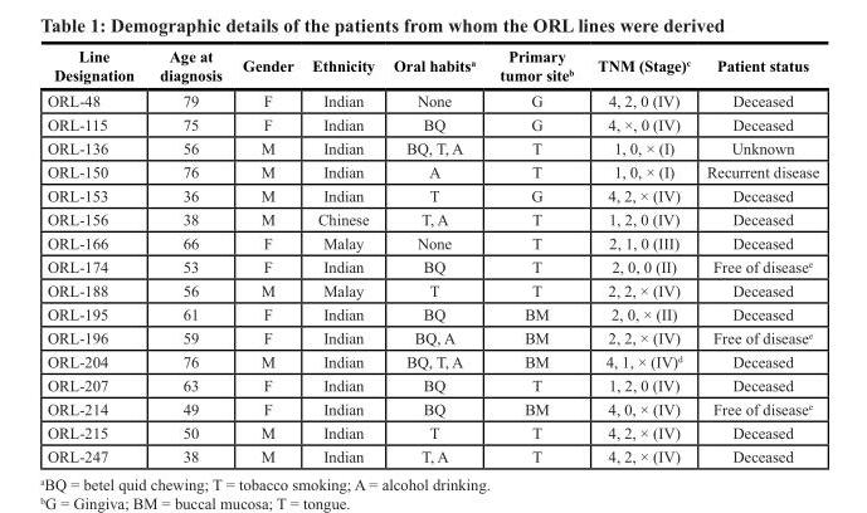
<table><thead><tr><td>Line Designation</td><td>Age at diagnosis</td><td>Gender</td><td>Ethnicity</td><td>Oral habits<sup>a</sup></td><td>Primary tumor site<sup>b</sup></td><td>TNM (Stage)<sup>c</sup></td><td>Patient status</td></tr></thead><tbody><tr><td>ORL-48</td><td>79</td><td>F</td><td>Indian</td><td>None</td><td>G</td><td>4, 2, 0 (IV)</td><td>Deceased</td></tr><tr><td>ORL-115</td><td>75</td><td>F</td><td>Indian</td><td>BQ</td><td>G</td><td>4, ×, 0 (IV)</td><td>Deceased</td></tr><tr><td>ORL-136</td><td>56</td><td>M</td><td>Indian</td><td>BQ, T, A</td><td>T</td><td>1, 0, × (I)</td><td>Unknown</td></tr><tr><td>ORL-150</td><td>76</td><td>M</td><td>Indian</td><td>A</td><td>T</td><td>1, 0, × (I)</td><td>Recurrent disease</td></tr><tr><td>ORL-153</td><td>36</td><td>M</td><td>Indian</td><td>T</td><td>G</td><td>4, 2, × (IV)</td><td>Deceased</td></tr><tr><td>ORL-156</td><td>38</td><td>M</td><td>Chinese</td><td>T, A</td><td>T</td><td>1, 2, 0 (IV)</td><td>Deceased</td></tr><tr><td>ORL-166</td><td>66</td><td>F</td><td>Malay</td><td>None</td><td>T</td><td>2, 1, 0 (III)</td><td>Deceased</td></tr><tr><td>ORL-174</td><td>53</td><td>F</td><td>Indian</td><td>BQ</td><td>T</td><td>2, 0, 0 (II)</td><td>Free of disease<sup>e</sup></td></tr><tr><td>ORL-188</td><td>56</td><td>M</td><td>Malay</td><td>T</td><td>T</td><td>2, 2, × (IV)</td><td>Deceased</td></tr><tr><td>ORL-195</td><td>61</td><td>F</td><td>Indian</td><td>BQ</td><td>BM</td><td>2, 0, × (II)</td><td>Deceased</td></tr><tr><td>ORL-196</td><td>59</td><td>F</td><td>Indian</td><td>BQ, A</td><td>BM</td><td>2, 2, × (IV)</td><td>Free of disease<sup>e</sup></td></tr><tr><td>ORL-204</td><td>76</td><td>M</td><td>Indian</td><td>BQ, T, A</td><td>BM</td><td>4, 1, × (IV)<sup>d</sup></td><td>Deceased</td></tr><tr><td>ORL-207</td><td>63</td><td>F</td><td>Indian</td><td>BQ</td><td>T</td><td>1, 2, 0 (IV)</td><td>Deceased</td></tr><tr><td>ORL-214</td><td>49</td><td>F</td><td>Indian</td><td>BQ</td><td>BM</td><td>4, 0, × (IV)</td><td>Free of disease<sup>e</sup></td></tr><tr><td>ORL-215</td><td>50</td><td>M</td><td>Indian</td><td>T</td><td>T</td><td>4, 2, × (IV)</td><td>Deceased</td></tr><tr><td>ORL-247</td><td>38</td><td>M</td><td>Indian</td><td>T, A</td><td>T</td><td>4, 2, × (IV)</td><td>Deceased</td></tr></tbody></table>